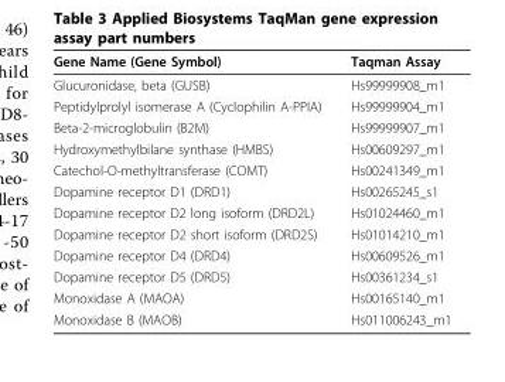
<table><thead><tr><td>Gene Name (Gene Symbol)</td><td>Taqman Assay</td></tr></thead><tbody><tr><td>Glucuronidase, beta (GUSB)</td><td>Hs99999908_m1</td></tr><tr><td>Peptidylprolyl isomerase A (Cyclophilin A-PPIA)</td><td>Hs99999904_m1</td></tr><tr><td>Beta-2-microglobulin (B2M)</td><td>Hs99999907_m1</td></tr><tr><td>Hydroxymethylbilane synthase (HMBS)</td><td>Hs00609297_m1</td></tr><tr><td>Catechol-O-methyltransferase (COMT)</td><td>Hs00241349_m1</td></tr><tr><td>Dopamine receptor D1 (DRD1)</td><td>Hs00265245_s1</td></tr><tr><td>Dopamine receptor D2 long isoform (DRD2L)</td><td>Hs01024460_m1</td></tr><tr><td>Dopamine receptor D2 short isoform (DRD2S)</td><td>Hs01014210_m1</td></tr><tr><td>Dopamine receptor D4 (DRD4)</td><td>Hs00609526_m1</td></tr><tr><td>Dopamine receptor D5 (DRD5)</td><td>Hs00361234_s1</td></tr><tr><td>Monoxidase A (MAOA)</td><td>Hs00165140_m1</td></tr><tr><td>Monoxidase B (MAOB)</td><td>Hs011006243_m1</td></tr></tbody></table>